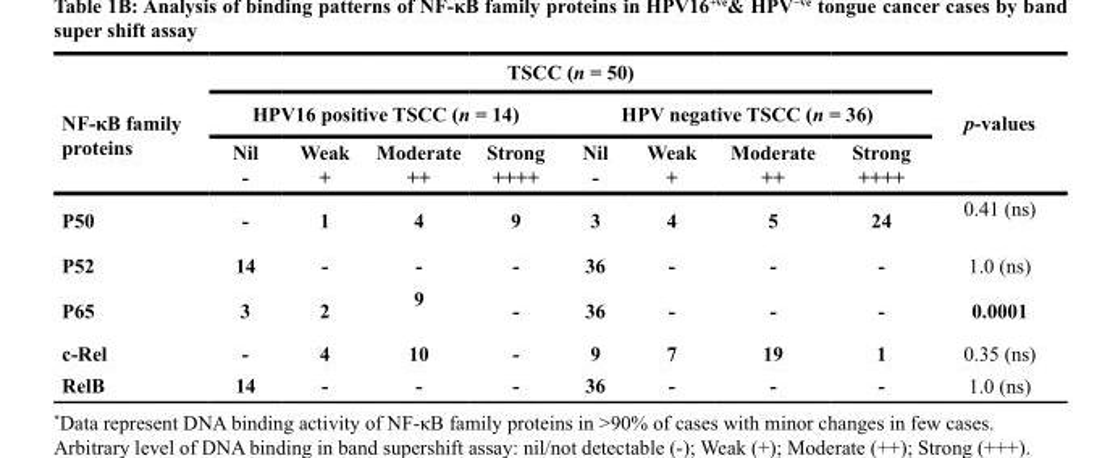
<table><thead><tr><td rowspan="3">NF-κB family proteins</td><td colspan="8">TSCC (n = 50)</td><td rowspan="3">p-values</td></tr><tr><td colspan="4">HPV16 positive TSCC (n = 14)</td><td colspan="4">HPV negative TSCC (n = 36)</td></tr><tr><td>Nil -</td><td>Weak +</td><td>Moderate ++</td><td>Strong ++++</td><td>Nil -</td><td>Weak +</td><td>Moderate ++</td><td>Strong ++++</td></tr></thead><tbody><tr><td>P50</td><td>-</td><td>1</td><td>4</td><td>9</td><td>3</td><td>4</td><td>5</td><td>24</td><td>0.41 (ns)</td></tr><tr><td>P52</td><td>14</td><td>-</td><td>-</td><td>-</td><td>36</td><td>-</td><td>-</td><td>-</td><td>1.0 (ns)</td></tr><tr><td>P65</td><td>3</td><td>2</td><td>9</td><td>-</td><td>36</td><td>-</td><td>-</td><td>-</td><td>0.0001</td></tr><tr><td>c-Rel</td><td>-</td><td>4</td><td>10</td><td>-</td><td>9</td><td>7</td><td>19</td><td>1</td><td>0.35 (ns)</td></tr><tr><td>RelB</td><td>14</td><td>-</td><td>-</td><td>-</td><td>36</td><td>-</td><td>-</td><td>-</td><td>1.0 (ns)</td></tr></tbody></table>